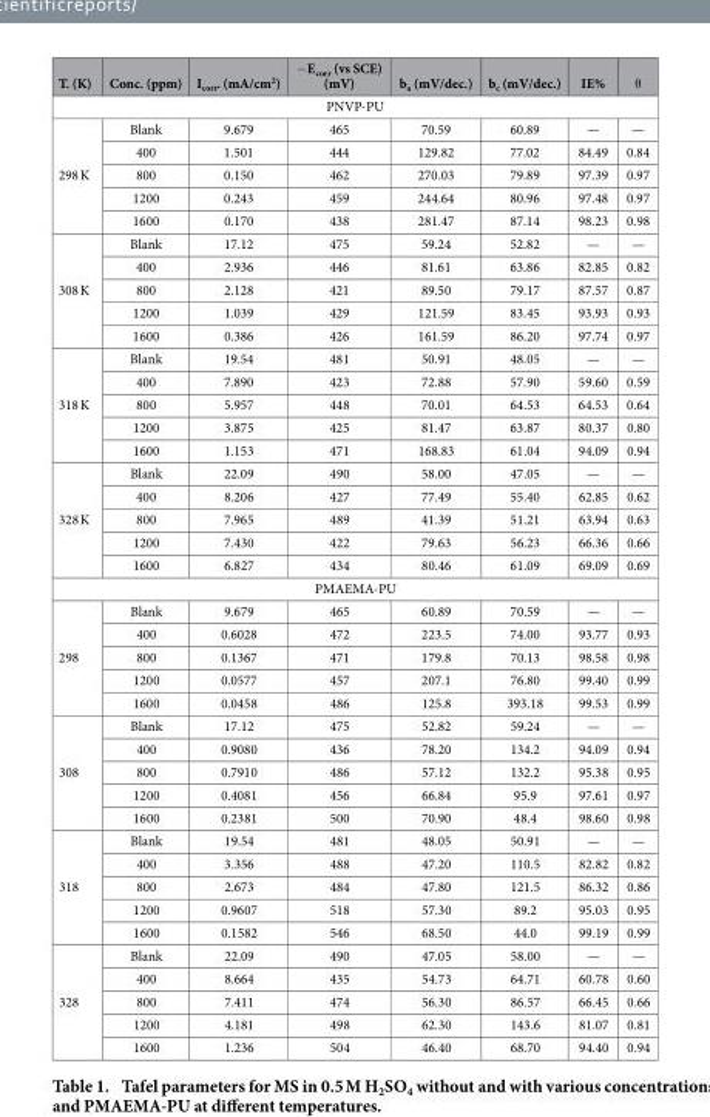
<table><thead><tr><td>T. (K)</td><td>Conc. (ppm)</td><td>I<sub>corr</sub>. (mA/cm<sup>2</sup>)</td><td>− E<sub>corr</sub> (vs SCE) (mV)</td><td>b<sub>a</sub> (mV/dec.)</td><td>b<sub>c</sub> (mV/dec.)</td><td>IE%</td><td>θ</td></tr></thead><tbody><tr><td colspan="8">PNVP-PU</td></tr><tr><td rowspan="5">298 K</td><td>Blank</td><td>9.679</td><td>465</td><td>70.59</td><td>60.89</td><td>—</td><td>—</td></tr><tr><td>400</td><td>1.501</td><td>444</td><td>129.82</td><td>77.02</td><td>84.49</td><td>0.84</td></tr><tr><td>800</td><td>0.150</td><td>462</td><td>270.03</td><td>79.89</td><td>97.39</td><td>0.97</td></tr><tr><td>1200</td><td>0.243</td><td>459</td><td>244.64</td><td>80.96</td><td>97.48</td><td>0.97</td></tr><tr><td>1600</td><td>0.170</td><td>438</td><td>281.47</td><td>87.14</td><td>98.23</td><td>0.98</td></tr><tr><td rowspan="5">308 K</td><td>Blank</td><td>17.12</td><td>475</td><td>59.24</td><td>52.82</td><td>—</td><td>—</td></tr><tr><td>400</td><td>2.936</td><td>446</td><td>81.61</td><td>63.86</td><td>82.85</td><td>0.82</td></tr><tr><td>800</td><td>2.128</td><td>421</td><td>89.50</td><td>79.17</td><td>87.57</td><td>0.87</td></tr><tr><td>1200</td><td>1.039</td><td>429</td><td>121.59</td><td>83.45</td><td>93.93</td><td>0.93</td></tr><tr><td>1600</td><td>0.386</td><td>426</td><td>161.59</td><td>86.20</td><td>97.74</td><td>0.97</td></tr><tr><td rowspan="5">318 K</td><td>Blank</td><td>19.54</td><td>481</td><td>50.91</td><td>48.05</td><td>—</td><td>—</td></tr><tr><td>400</td><td>7.890</td><td>423</td><td>72.88</td><td>57.90</td><td>59.60</td><td>0.59</td></tr><tr><td>800</td><td>5.957</td><td>448</td><td>70.01</td><td>64.53</td><td>64.53</td><td>0.64</td></tr><tr><td>1200</td><td>3.875</td><td>425</td><td>81.47</td><td>63.87</td><td>80.37</td><td>0.80</td></tr><tr><td>1600</td><td>1.153</td><td>471</td><td>168.83</td><td>61.04</td><td>94.09</td><td>0.94</td></tr><tr><td rowspan="5">328 K</td><td>Blank</td><td>22.09</td><td>490</td><td>58.00</td><td>47.05</td><td>—</td><td>—</td></tr><tr><td>400</td><td>8.206</td><td>427</td><td>77.49</td><td>55.40</td><td>62.85</td><td>0.62</td></tr><tr><td>800</td><td>7.965</td><td>489</td><td>41.39</td><td>51.21</td><td>63.94</td><td>0.63</td></tr><tr><td>1200</td><td>7.430</td><td>422</td><td>79.63</td><td>56.23</td><td>66.36</td><td>0.66</td></tr><tr><td>1600</td><td>6.827</td><td>434</td><td>80.46</td><td>61.09</td><td>69.09</td><td>0.69</td></tr><tr><td colspan="8">PMAEMA-PU</td></tr><tr><td rowspan="5">298</td><td>Blank</td><td>9.679</td><td>465</td><td>60.89</td><td>70.59</td><td>—</td><td>—</td></tr><tr><td>400</td><td>0.6028</td><td>472</td><td>223.5</td><td>74.00</td><td>93.77</td><td>0.93</td></tr><tr><td>800</td><td>0.1367</td><td>471</td><td>179.8</td><td>70.13</td><td>98.58</td><td>0.98</td></tr><tr><td>1200</td><td>0.0577</td><td>457</td><td>207.1</td><td>76.80</td><td>99.40</td><td>0.99</td></tr><tr><td>1600</td><td>0.0458</td><td>486</td><td>125.8</td><td>393.18</td><td>99.53</td><td>0.99</td></tr><tr><td rowspan="5">308</td><td>Blank</td><td>17.12</td><td>475</td><td>52.82</td><td>59.24</td><td>—</td><td>—</td></tr><tr><td>400</td><td>0.9080</td><td>436</td><td>78.20</td><td>134.2</td><td>94.09</td><td>0.94</td></tr><tr><td>800</td><td>0.7910</td><td>486</td><td>57.12</td><td>132.2</td><td>95.38</td><td>0.95</td></tr><tr><td>1200</td><td>0.4081</td><td>456</td><td>66.84</td><td>95.9</td><td>97.61</td><td>0.97</td></tr><tr><td>1600</td><td>0.2381</td><td>500</td><td>70.90</td><td>48.4</td><td>98.60</td><td>0.98</td></tr><tr><td rowspan="5">318</td><td>Blank</td><td>19.54</td><td>481</td><td>48.05</td><td>50.91</td><td>—</td><td>—</td></tr><tr><td>400</td><td>3.356</td><td>488</td><td>47.20</td><td>110.5</td><td>82.82</td><td>0.82</td></tr><tr><td>800</td><td>2.673</td><td>484</td><td>47.80</td><td>121.5</td><td>86.32</td><td>0.86</td></tr><tr><td>1200</td><td>0.9607</td><td>518</td><td>57.30</td><td>89.2</td><td>95.03</td><td>0.95</td></tr><tr><td>1600</td><td>0.1582</td><td>546</td><td>68.50</td><td>44.0</td><td>99.19</td><td>0.99</td></tr><tr><td rowspan="5">328</td><td>Blank</td><td>22.09</td><td>490</td><td>47.05</td><td>58.00</td><td>—</td><td>—</td></tr><tr><td>400</td><td>8.664</td><td>435</td><td>54.73</td><td>64.71</td><td>60.78</td><td>0.60</td></tr><tr><td>800</td><td>7.411</td><td>474</td><td>56.30</td><td>86.57</td><td>66.45</td><td>0.66</td></tr><tr><td>1200</td><td>4.181</td><td>498</td><td>62.30</td><td>143.6</td><td>81.07</td><td>0.81</td></tr><tr><td>1600</td><td>1.236</td><td>504</td><td>46.40</td><td>68.70</td><td>94.40</td><td>0.94</td></tr></tbody></table>